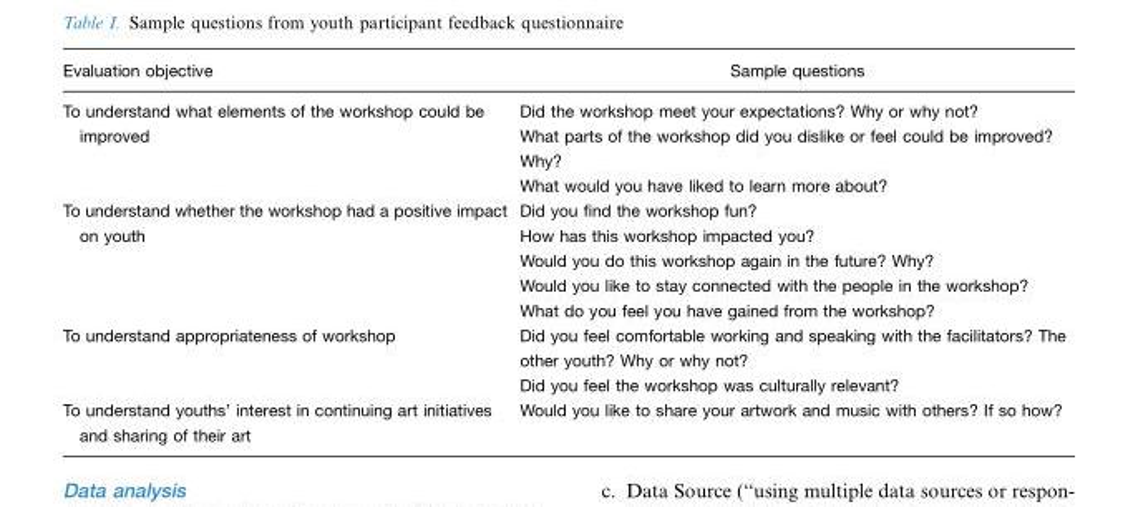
<table><thead><tr><td>Evaluation objective</td><td>Sample questions</td></tr></thead><tbody><tr><td>To understand what elements of the workshop could be improved</td><td>Did the workshop meet your expectations? Why or why not? What parts of the workshop did you dislike or feel could be improved? Why? What would you have liked to learn more about?</td></tr><tr><td>To understand whether the workshop had a positive impact on youth</td><td>Did you find the workshop fun? How has this workshop impacted you? Would you do this workshop again in the future? Why? Would you like to stay connected with the people in the workshop? What do you feel you have gained from the workshop?</td></tr><tr><td>To understand appropriateness of workshop</td><td>Did you feel comfortable working and speaking with the facilitators? The other youth? Why or why not? Did you feel the workshop was culturally relevant?</td></tr><tr><td>To understand youths’ interest in continuing art initiatives and sharing of their art</td><td>Would you like to share your artwork and music with others? If so how?</td></tr></tbody></table>